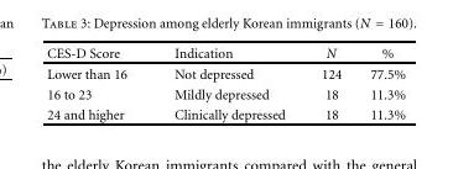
<table><thead><tr><td>CES-D Score</td><td>Indication</td><td>N</td><td>%</td></tr></thead><tbody><tr><td>Lower than 16</td><td>Not depressed</td><td>124</td><td>77.5%</td></tr><tr><td>16 to 23</td><td>Mildly depressed</td><td>18</td><td>11.3%</td></tr><tr><td>24 and higher</td><td>Clinically depressed</td><td>18</td><td>11.3%</td></tr></tbody></table>